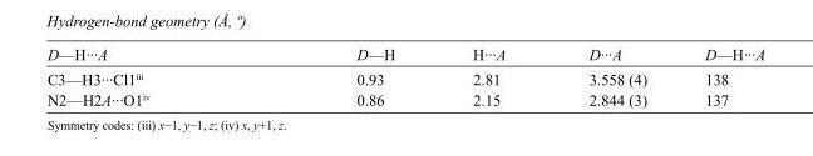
<table><tbody><tr><td>D—H···A</td><td>D—H</td><td>H···A</td><td>D···A</td><td>D—H···A</td></tr><tr><td>C3—H3···Cl1<sup>iii</sup></td><td>0.93</td><td>2.81</td><td>3.558 (4)</td><td>138</td></tr><tr><td>N2—H2A···O1<sup>iv</sup></td><td>0.86</td><td>2.15</td><td>2.844 (3)</td><td>137</td></tr></tbody></table>